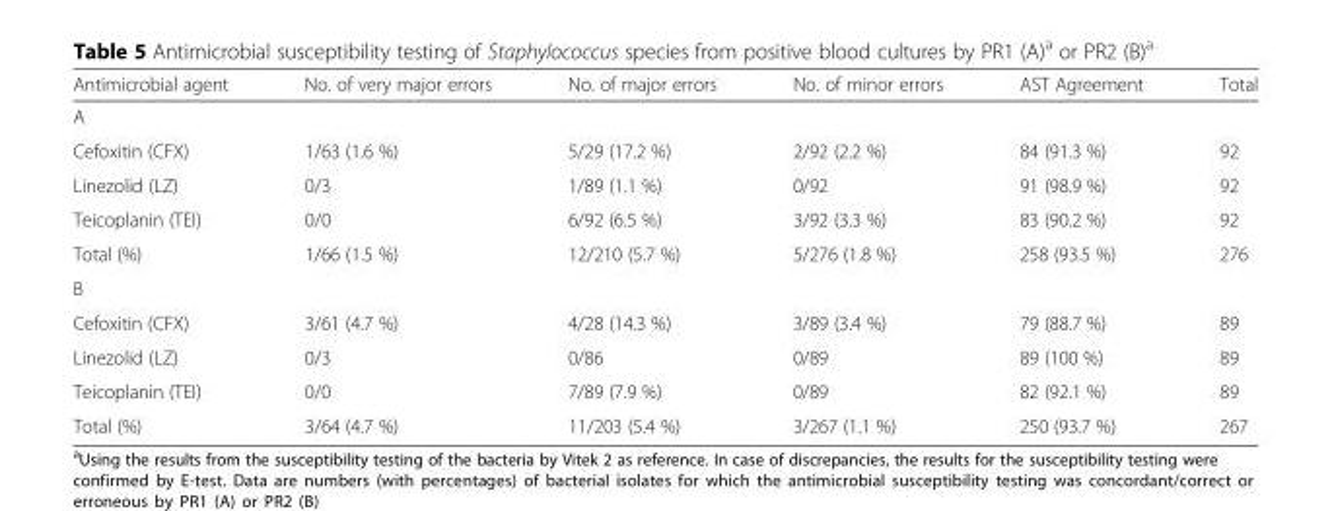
<table><thead><tr><td>Antimicrobial agent</td><td>No. of very major errors</td><td>No. of major errors</td><td>No. of minor errors</td><td>AST Agreement</td><td>Total</td></tr></thead><tbody><tr><td colspan="6">A</td></tr><tr><td>Cefoxitin (CFX)</td><td>1/63 (1.6 %)</td><td>5/29 (17.2 %)</td><td>2/92 (2.2 %)</td><td>84 (91.3 %)</td><td>92</td></tr><tr><td>Linezolid (LZ)</td><td>0/3</td><td>1/89 (1.1 %)</td><td>0/92</td><td>91 (98.9 %)</td><td>92</td></tr><tr><td>Teicoplanin (TEI)</td><td>0/0</td><td>6/92 (6.5 %)</td><td>3/92 (3.3 %)</td><td>83 (90.2 %)</td><td>92</td></tr><tr><td>Total (%)</td><td>1/66 (1.5 %)</td><td>12/210 (5.7 %)</td><td>5/276 (1.8 %)</td><td>258 (93.5 %)</td><td>276</td></tr><tr><td colspan="6">B</td></tr><tr><td>Cefoxitin (CFX)</td><td>3/61 (4.7 %)</td><td>4/28 (14.3 %)</td><td>3/89 (3.4 %)</td><td>79 (88.7 %)</td><td>89</td></tr><tr><td>Linezolid (LZ)</td><td>0/3</td><td>0/86</td><td>0/89</td><td>89 (100 %)</td><td>89</td></tr><tr><td>Teicoplanin (TEI)</td><td>0/0</td><td>7/89 (7.9 %)</td><td>0/89</td><td>82 (92.1 %)</td><td>89</td></tr><tr><td>Total (%)</td><td>3/64 (4.7 %)</td><td>11/203 (5.4 %)</td><td>3/267 (1.1 %)</td><td>250 (93.7 %)</td><td>267</td></tr></tbody></table>